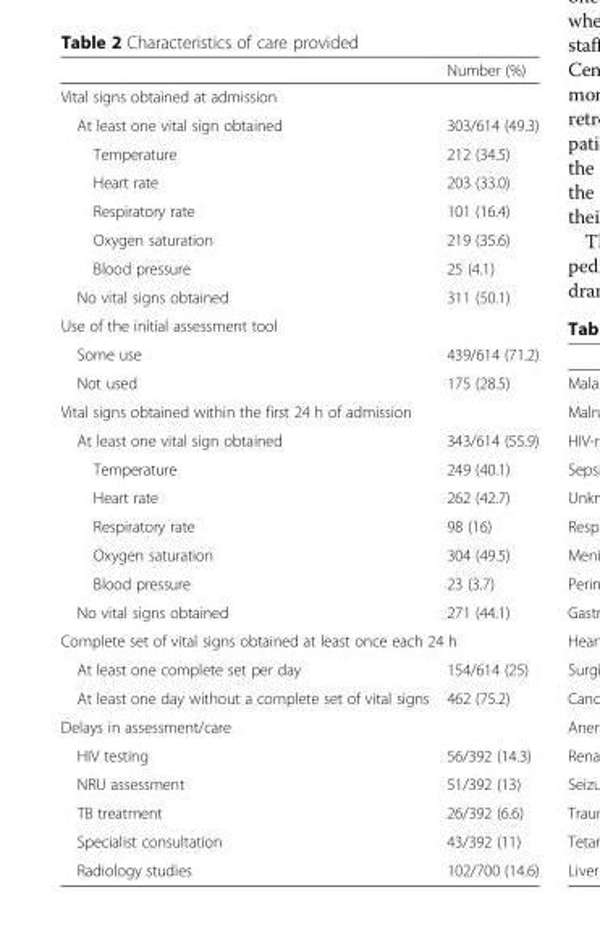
<table><thead><tr><td></td><td>Number (%)</td></tr></thead><tbody><tr><td colspan="2">Vital signs obtained at admission</td></tr><tr><td>At least one vital sign obtained</td><td>303/614 (49.3)</td></tr><tr><td>Temperature</td><td>212 (34.5)</td></tr><tr><td>Heart rate</td><td>203 (33.0)</td></tr><tr><td>Respiratory rate</td><td>101 (16.4)</td></tr><tr><td>Oxygen saturation</td><td>219 (35.6)</td></tr><tr><td>Blood pressure</td><td>25 (4.1)</td></tr><tr><td>No vital signs obtained</td><td>311 (50.1)</td></tr><tr><td colspan="2">Use of the initial assessment tool</td></tr><tr><td>Some use</td><td>439/614 (71.2)</td></tr><tr><td>Not used</td><td>175 (28.5)</td></tr><tr><td colspan="2">Vital signs obtained within the first 24 h of admission</td></tr><tr><td>At least one vital sign obtained</td><td>343/614 (55.9)</td></tr><tr><td>Temperature</td><td>249 (40.1)</td></tr><tr><td>Heart rate</td><td>262 (42.7)</td></tr><tr><td>Respiratory rate</td><td>98 (16)</td></tr><tr><td>Oxygen saturation</td><td>304 (49.5)</td></tr><tr><td>Blood pressure</td><td>23 (3.7)</td></tr><tr><td>No vital signs obtained</td><td>271 (44.1)</td></tr><tr><td colspan="2">Complete set of vital signs obtained at least once each 24 h</td></tr><tr><td>At least one complete set per day</td><td>154/614 (25)</td></tr><tr><td>At least one day without a complete set of vital signs</td><td>462 (75.2)</td></tr><tr><td colspan="2">Delays in assessment/care</td></tr><tr><td>HIV testing</td><td>56/392 (14.3)</td></tr><tr><td>NRU assessment</td><td>51/392 (13)</td></tr><tr><td>TB treatment</td><td>26/392 (6.6)</td></tr><tr><td>Specialist consultation</td><td>43/392 (11)</td></tr><tr><td>Radiology studies</td><td>102/700 (14.6)</td></tr></tbody></table>